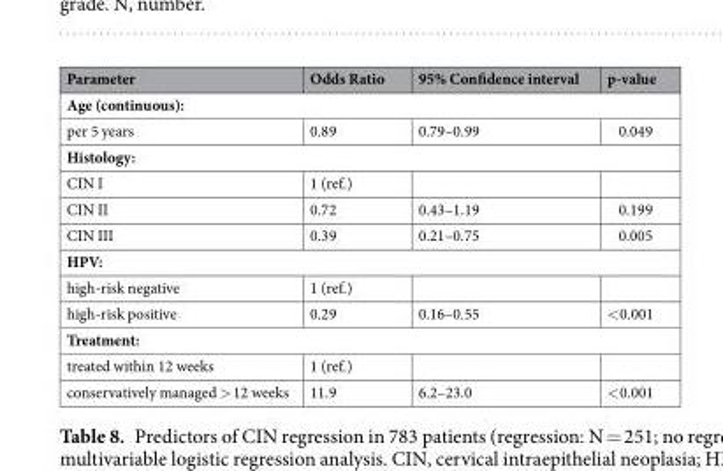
<table><thead><tr><td>Parameter</td><td>Odds Ratio</td><td>95% Confidence interval</td><td>p-value</td></tr></thead><tbody><tr><td colspan="4">Age (continuous):</td></tr><tr><td>per 5 years</td><td>0.89</td><td>0.79–0.99</td><td>0.049</td></tr><tr><td colspan="4">Histology:</td></tr><tr><td>CIN I</td><td>1 (ref.)</td><td></td><td></td></tr><tr><td>CIN II</td><td>0.72</td><td>0.43–1.19</td><td>0.199</td></tr><tr><td>CIN III</td><td>0.39</td><td>0.21–0.75</td><td>0.005</td></tr><tr><td colspan="4">HPV:</td></tr><tr><td>high-risk negative</td><td>1 (ref.)</td><td></td><td></td></tr><tr><td>high-risk positive</td><td>0.29</td><td>0.16–0.55</td><td>&lt;0.001</td></tr><tr><td colspan="4">Treatment:</td></tr><tr><td>treated within 12 weeks</td><td>1 (ref.)</td><td></td><td></td></tr><tr><td>conservatively managed &gt; 12 weeks</td><td>11.9</td><td>6.2–23.0</td><td>&lt;0.001</td></tr></tbody></table>